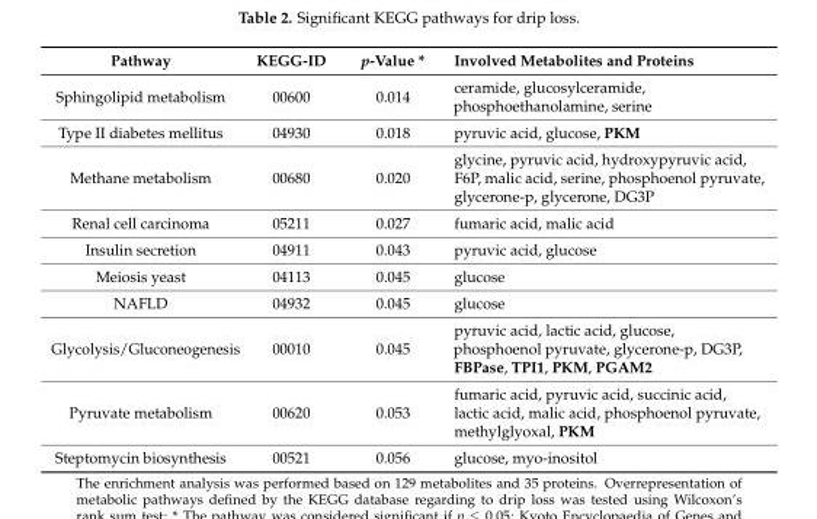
<table><thead><tr><td>Pathway</td><td>KEGG-ID</td><td>p-Value *</td><td>Involved Metabolites and Proteins</td></tr></thead><tbody><tr><td>Sphingolipid metabolism</td><td>00600</td><td>0.014</td><td>ceramide, glucosylceramide, phosphoethanolamine, serine</td></tr><tr><td>Type II diabetes mellitus</td><td>04930</td><td>0.018</td><td>pyruvic acid, glucose, PKM</td></tr><tr><td>Methane metabolism</td><td>00680</td><td>0.020</td><td>glycine, pyruvic acid, hydroxypyruvic acid, F6P, malic acid, serine, phosphoenol pyruvate, glycerone-p, glycerone, DG3P</td></tr><tr><td>Renal cell carcinoma</td><td>05211</td><td>0.027</td><td>fumaric acid, malic acid</td></tr><tr><td>Insulin secretion</td><td>04911</td><td>0.043</td><td>pyruvic acid, glucose</td></tr><tr><td>Meiosis yeast</td><td>04113</td><td>0.045</td><td>glucose</td></tr><tr><td>NAFLD</td><td>04932</td><td>0.045</td><td>glucose</td></tr><tr><td>Glycolysis/Gluconeogenesis</td><td>00010</td><td>0.045</td><td>pyruvic acid, lactic acid, glucose, phosphoenol pyruvate, glycerone-p, DG3P, FBPase, TPI1, PKM, PGAM2</td></tr><tr><td>Pyruvate metabolism</td><td>00620</td><td>0.053</td><td>fumaric acid, pyruvic acid, succinic acid, lactic acid, malic acid, phosphoenol pyruvate, methylglyoxal, PKM</td></tr><tr><td>Steptomycin biosynthesis</td><td>00521</td><td>0.056</td><td>glucose, myo-inositol</td></tr></tbody></table>